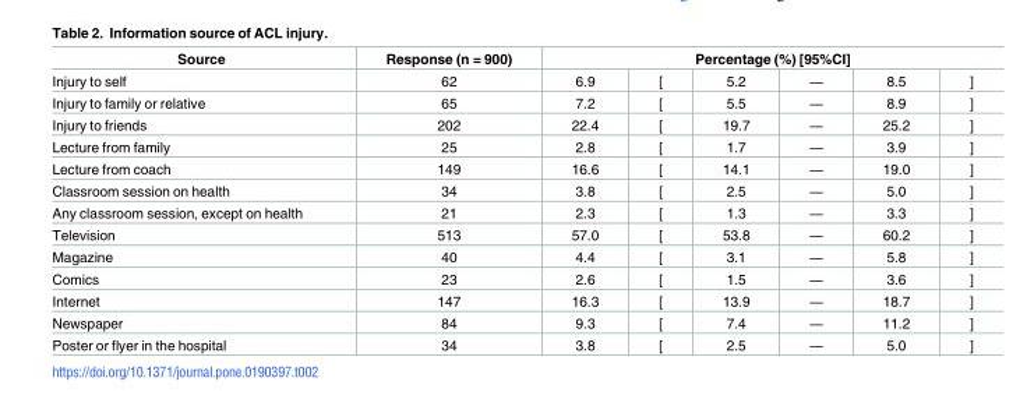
<table><thead><tr><td rowspan="2">Source Injury to self</td><td rowspan="2">Response (n = 900) 62</td><td colspan="6">Percentage (%) [95%CI]</td></tr><tr><td>6.9</td><td>[</td><td>5.2</td><td>―</td><td>8.5</td><td>]</td></tr></thead><tbody><tr><td>Injury to family or relative</td><td>65</td><td>7.2</td><td>[</td><td>5.5</td><td>―</td><td>8.9</td><td>]</td></tr><tr><td>Injury to friends</td><td>202</td><td>22.4</td><td>[</td><td>19.7</td><td>―</td><td>25.2</td><td>]</td></tr><tr><td>Lecture from family</td><td>25</td><td>2.8</td><td>[</td><td>1.7</td><td>―</td><td>3.9</td><td>]</td></tr><tr><td>Lecture from coach</td><td>149</td><td>16.6</td><td>[</td><td>14.1</td><td>―</td><td>19.0</td><td>]</td></tr><tr><td>Classroom session on health</td><td>34</td><td>3.8</td><td>[</td><td>2.5</td><td>―</td><td>5.0</td><td>]</td></tr><tr><td>Any classroom session, except on health</td><td>21</td><td>2.3</td><td>[</td><td>1.3</td><td>―</td><td>3.3</td><td>]</td></tr><tr><td>Television</td><td>513</td><td>57.0</td><td>[</td><td>53.8</td><td>―</td><td>60.2</td><td>]</td></tr><tr><td>Magazine</td><td>40</td><td>4.4</td><td>[</td><td>3.1</td><td>―</td><td>5.8</td><td>]</td></tr><tr><td>Comics</td><td>23</td><td>2.6</td><td>[</td><td>1.5</td><td>―</td><td>3.6</td><td>]</td></tr><tr><td>Internet</td><td>147</td><td>16.3</td><td>[</td><td>13.9</td><td>―</td><td>18.7</td><td>]</td></tr><tr><td>Newspaper</td><td>84</td><td>9.3</td><td>[</td><td>7.4</td><td>―</td><td>11.2</td><td>]</td></tr><tr><td>Poster or flyer in the hospital</td><td>34</td><td>3.8</td><td>[</td><td>2.5</td><td>―</td><td>5.0</td><td>]</td></tr></tbody></table>